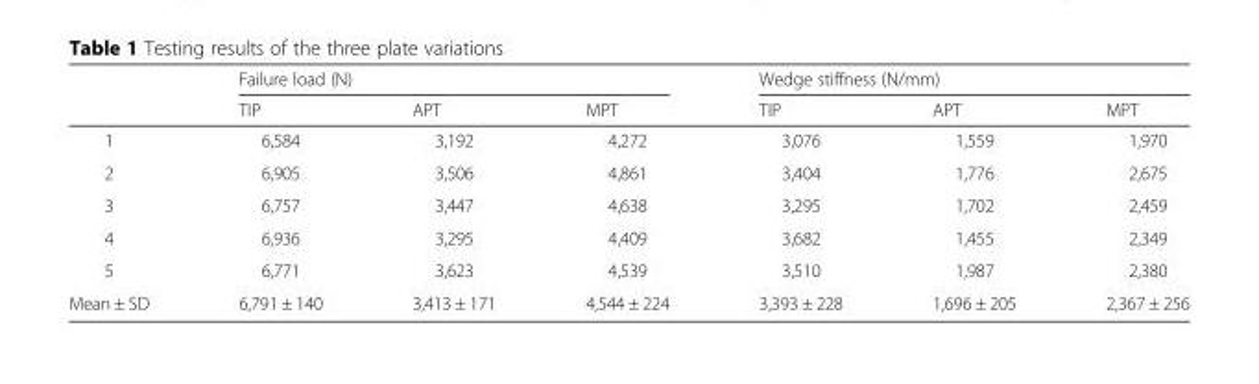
<table><thead><tr><td rowspan="2"></td><td colspan="3">Failure load (N)</td><td colspan="3">Wedge stiffness (N/mm)</td></tr><tr><td>TIP</td><td>APT</td><td>MPT</td><td>TIP</td><td>APT</td><td>MPT</td></tr></thead><tbody><tr><td>1</td><td>6,584</td><td>3,192</td><td>4,272</td><td>3,076</td><td>1,559</td><td>1,970</td></tr><tr><td>2</td><td>6,905</td><td>3,506</td><td>4,861</td><td>3,404</td><td>1,776</td><td>2,675</td></tr><tr><td>3</td><td>6,757</td><td>3,447</td><td>4,638</td><td>3,295</td><td>1,702</td><td>2,459</td></tr><tr><td>4</td><td>6,936</td><td>3,295</td><td>4,409</td><td>3,682</td><td>1,455</td><td>2,349</td></tr><tr><td>5</td><td>6,771</td><td>3,623</td><td>4,539</td><td>3,510</td><td>1,987</td><td>2,380</td></tr><tr><td>Mean ± SD</td><td>6,791 ± 140</td><td>3,413 ± 171</td><td>4,544 ± 224</td><td>3,393 ± 228</td><td>1,696 ± 205</td><td>2,367 ± 256</td></tr></tbody></table>